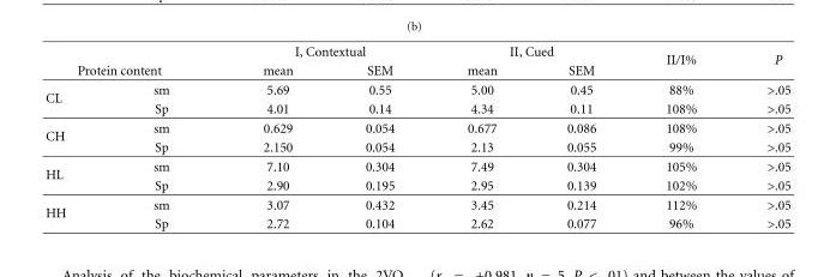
<table><thead><tr><td></td><td></td><td colspan="2">I, Contextual</td><td colspan="2">II, Cued</td><td rowspan="2">II/I%</td><td rowspan="2">P</td></tr><tr><td colspan="2">Protein content</td><td>mean</td><td>SEM</td><td>mean</td><td>SEM</td></tr></thead><tbody><tr><td rowspan="2">CL</td><td>sm</td><td>5.69</td><td>0.55</td><td>5.00</td><td>0.45</td><td>88%</td><td>&gt;.05</td></tr><tr><td>Sp</td><td>4.01</td><td>0.14</td><td>4.34</td><td>0.11</td><td>108%</td><td>&gt;.05</td></tr><tr><td rowspan="2">CH</td><td>sm</td><td>0.629</td><td>0.054</td><td>0.677</td><td>0.086</td><td>108%</td><td>&gt;.05</td></tr><tr><td>Sp</td><td>2.150</td><td>0.054</td><td>2.13</td><td>0.055</td><td>99%</td><td>&gt;.05</td></tr><tr><td rowspan="2">HL</td><td>sm</td><td>7.10</td><td>0.304</td><td>7.49</td><td>0.304</td><td>105%</td><td>&gt;.05</td></tr><tr><td>Sp</td><td>2.90</td><td>0.195</td><td>2.95</td><td>0.139</td><td>102%</td><td>&gt;.05</td></tr><tr><td rowspan="2">HH</td><td>sm</td><td>3.07</td><td>0.432</td><td>3.45</td><td>0.214</td><td>112%</td><td>&gt;.05</td></tr><tr><td>Sp</td><td>2.72</td><td>0.104</td><td>2.62</td><td>0.077</td><td>96%</td><td>&gt;.05</td></tr></tbody></table>